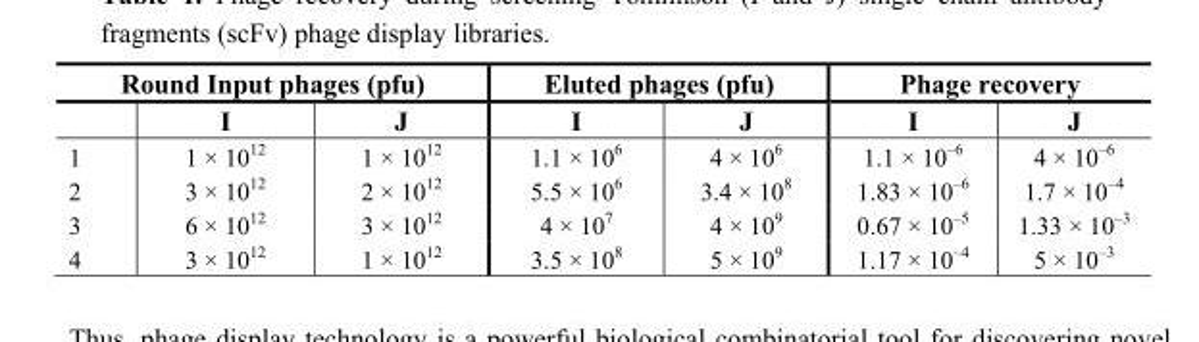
<table><thead><tr><td colspan="3">Round Input phages (pfu)</td><td colspan="2">Eluted phages (pfu)</td><td colspan="2">Phage recovery</td></tr><tr><td></td><td>I</td><td>J</td><td>I</td><td>J</td><td>I</td><td>J</td></tr></thead><tbody><tr><td>1</td><td>1 × 10<sup>12</sup></td><td>1 × 10<sup>12</sup></td><td>1.1 × 10<sup>6</sup></td><td>4 × 10<sup>6</sup></td><td>1.1 × 10<sup>–6</sup></td><td>4 × 10<sup>–6</sup></td></tr><tr><td>2</td><td>3 × 10<sup>12</sup></td><td>2 × 10<sup>12</sup></td><td>5.5 × 10<sup>6</sup></td><td>3.4 × 10<sup>8</sup></td><td>1.83 × 10<sup>–6</sup></td><td>1.7 × 10<sup>–4</sup></td></tr><tr><td>3</td><td>6 × 10<sup>12</sup></td><td>3 × 10<sup>12</sup></td><td>4 × 10<sup>7</sup></td><td>4 × 10<sup>9</sup></td><td>0.67 × 10<sup>–5</sup></td><td>1.33 × 10<sup>–3</sup></td></tr><tr><td>4</td><td>3 × 10<sup>12</sup></td><td>1 × 10<sup>12</sup></td><td>3.5 × 10<sup>8</sup></td><td>5 × 10<sup>9</sup></td><td>1.17 × 10<sup>–4</sup></td><td>5 × 10<sup>–3</sup></td></tr></tbody></table>